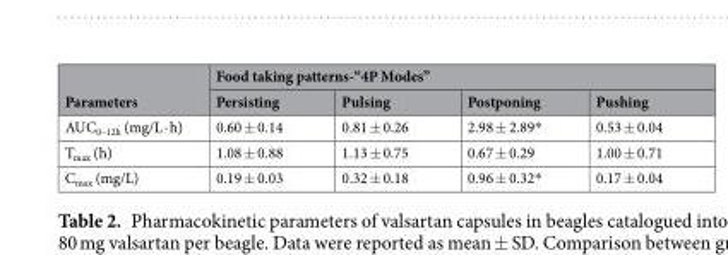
<table><thead><tr><td rowspan="2">Parameters</td><td colspan="4">Food taking patterns-“4P Modes”</td></tr><tr><td>Persisting</td><td>Pulsing</td><td>Postponing</td><td>Pushing</td></tr></thead><tbody><tr><td>AUC<sub>0–12h</sub> (mg/L · h)</td><td>0.60 ± 0.14</td><td>0.81 ± 0.26</td><td>2.98 ± 2.89*</td><td>0.53 ± 0.04</td></tr><tr><td>T<sub>max</sub> (h)</td><td>1.08 ± 0.88</td><td>1.13 ± 0.75</td><td>0.67 ± 0.29</td><td>1.00 ± 0.71</td></tr><tr><td>C<sub>max</sub> (mg/L)</td><td>0.19 ± 0.03</td><td>0.32 ± 0.18</td><td>0.96 ± 0.32*</td><td>0.17 ± 0.04</td></tr></tbody></table>